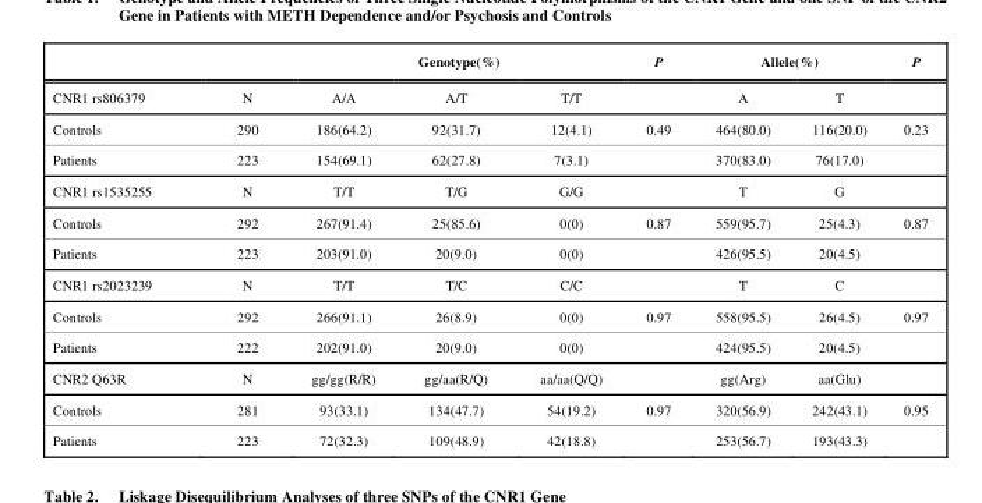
<table><thead><tr><td rowspan="2">CNR1 rs806379</td><td rowspan="2">N</td><td colspan="3">Genotype(%)</td><td rowspan="2">P</td><td colspan="2">Allele(%)</td><td rowspan="2">P</td></tr><tr><td>A/A</td><td>A/T</td><td>T/T</td><td>A</td><td>T</td></tr></thead><tbody><tr><td>Controls</td><td>290</td><td>186(64.2)</td><td>92(31.7)</td><td>12(4.1)</td><td>0.49</td><td>464(80.0)</td><td>116(20.0)</td><td>0.23</td></tr><tr><td>Patients</td><td>223</td><td>154(69.1)</td><td>62(27.8)</td><td>7(3.1)</td><td></td><td>370(83.0)</td><td>76(17.0)</td><td></td></tr><tr><td>CNR1 rs1535255</td><td>N</td><td>T/T</td><td>T/G</td><td>G/G</td><td></td><td>T</td><td>G</td><td></td></tr><tr><td>Controls</td><td>292</td><td>267(91.4)</td><td>25(85.6)</td><td>0(0)</td><td>0.87</td><td>559(95.7)</td><td>25(4.3)</td><td>0.87</td></tr><tr><td>Patients</td><td>223</td><td>203(91.0)</td><td>20(9.0)</td><td>0(0)</td><td></td><td>426(95.5)</td><td>20(4.5)</td><td></td></tr><tr><td>CNR1 rs2023239</td><td>N</td><td>T/T</td><td>T/C</td><td>C/C</td><td></td><td>T</td><td>C</td><td></td></tr><tr><td>Controls</td><td>292</td><td>266(91.1)</td><td>26(8.9)</td><td>0(0)</td><td>0.97</td><td>558(95.5)</td><td>26(4.5)</td><td>0.97</td></tr><tr><td>Patients</td><td>222</td><td>202(91.0)</td><td>20(9.0)</td><td>0(0)</td><td></td><td>424(95.5)</td><td>20(4.5)</td><td></td></tr><tr><td>CNR2 Q63R</td><td>N</td><td>gg/gg(R/R)</td><td>gg/aa(R/Q)</td><td>aa/aa(Q/Q)</td><td></td><td>gg(Arg)</td><td>aa(Glu)</td><td></td></tr><tr><td>Controls</td><td>281</td><td>93(33.1)</td><td>134(47.7)</td><td>54(19.2)</td><td>0.97</td><td>320(56.9)</td><td>242(43.1)</td><td>0.95</td></tr><tr><td>Patients</td><td>223</td><td>72(32.3)</td><td>109(48.9)</td><td>42(18.8)</td><td></td><td>253(56.7)</td><td>193(43.3)</td><td></td></tr></tbody></table>